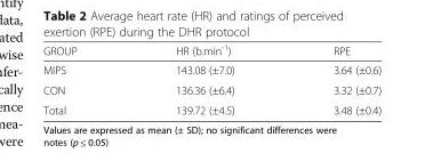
<table><thead><tr><td>GROUP</td><td>HR (b.min<sup>-1</sup>)</td><td>RPE</td></tr></thead><tbody><tr><td>MIPS</td><td>143.08 (±7.0)</td><td>3.64 (±0.6)</td></tr><tr><td>CON</td><td>136.36 (±6.4)</td><td>3.32 (±0.7)</td></tr><tr><td>Total</td><td>139.72 (±4.5)</td><td>3.48 (±0.4)</td></tr></tbody></table>